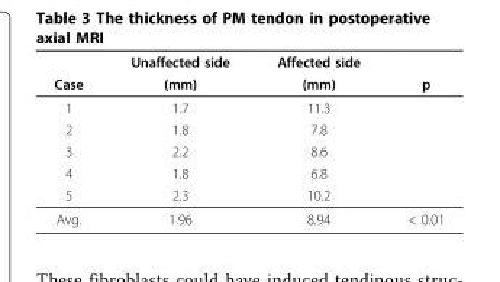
<table><thead><tr><td rowspan="2">Case</td><td rowspan="2">Unaffected side (mm)</td><td rowspan="2">Affected side (mm)</td><td rowspan="2">p</td></tr><tr></tr></thead><tbody><tr><td>1</td><td>1.7</td><td>11.3</td><td></td></tr><tr><td>2</td><td>1.8</td><td>7.8</td><td></td></tr><tr><td>3</td><td>2.2</td><td>8.6</td><td></td></tr><tr><td>4</td><td>1.8</td><td>6.8</td><td></td></tr><tr><td>5</td><td>2.3</td><td>10.2</td><td></td></tr><tr><td>Avg.</td><td>1.96</td><td>8.94</td><td>&lt; 0.01</td></tr></tbody></table>